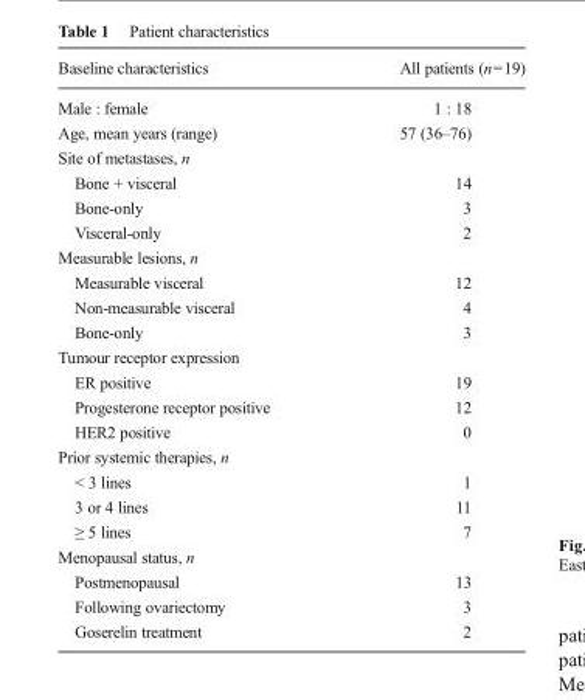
<table><thead><tr><td>Baseline characteristics</td><td>All patients (n=19)</td></tr></thead><tbody><tr><td>Male : female</td><td>1 : 18</td></tr><tr><td>Age, mean years (range)</td><td>57 (36–76)</td></tr><tr><td colspan="2">Site of metastases, n</td></tr><tr><td>Bone + visceral</td><td>14</td></tr><tr><td>Bone-only</td><td>3</td></tr><tr><td>Visceral-only</td><td>2</td></tr><tr><td colspan="2">Measurable lesions, n</td></tr><tr><td>Measurable visceral</td><td>12</td></tr><tr><td>Non-measurable visceral</td><td>4</td></tr><tr><td>Bone-only</td><td>3</td></tr><tr><td colspan="2">Tumour receptor expression</td></tr><tr><td>ER positive</td><td>19</td></tr><tr><td>Progesterone receptor positive</td><td>12</td></tr><tr><td>HER2 positive</td><td>0</td></tr><tr><td colspan="2">Prior systemic therapies, n</td></tr><tr><td>&lt; 3 lines</td><td>1</td></tr><tr><td>3 or 4 lines</td><td>11</td></tr><tr><td>≥ 5 lines</td><td>7</td></tr><tr><td colspan="2">Menopausal status, n</td></tr><tr><td>Postmenopausal</td><td>13</td></tr><tr><td>Following ovariectomy</td><td>3</td></tr><tr><td>Goserelin treatment</td><td>2</td></tr></tbody></table>